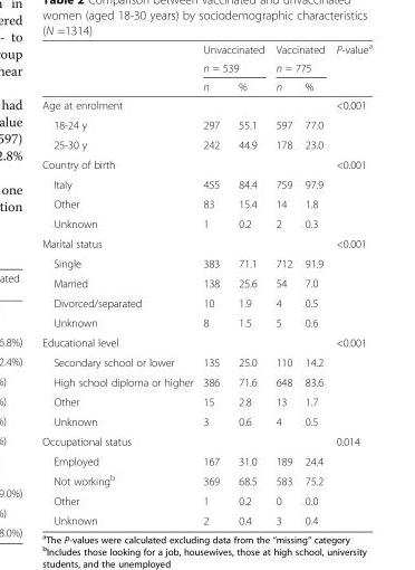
<table><thead><tr><td rowspan="3"></td><td rowspan="2" colspan="2">Unvaccinated n = 539</td><td rowspan="2" colspan="2">Vaccinated n = 775</td><td rowspan="3">P-value<sup>a</sup></td></tr><tr></tr><tr><td>n</td><td>%</td><td>n</td><td>%</td></tr></thead><tbody><tr><td>Age at enrolment</td><td></td><td></td><td></td><td></td><td>&lt;0.001</td></tr><tr><td>18-24 y</td><td>297</td><td>55.1</td><td>597</td><td>77.0</td><td></td></tr><tr><td>25-30 y</td><td>242</td><td>44.9</td><td>178</td><td>23.0</td><td></td></tr><tr><td>Country of birth</td><td></td><td></td><td></td><td></td><td>&lt;0.001</td></tr><tr><td>Italy</td><td>455</td><td>84.4</td><td>759</td><td>97.9</td><td></td></tr><tr><td>Other</td><td>83</td><td>15.4</td><td>14</td><td>1.8</td><td></td></tr><tr><td>Unknown</td><td>1</td><td>0.2</td><td>2</td><td>0.3</td><td></td></tr><tr><td>Marital status</td><td></td><td></td><td></td><td></td><td>&lt;0.001</td></tr><tr><td>Single</td><td>383</td><td>71.1</td><td>712</td><td>91.9</td><td></td></tr><tr><td>Married</td><td>138</td><td>25.6</td><td>54</td><td>7.0</td><td></td></tr><tr><td>Divorced/separated</td><td>10</td><td>1.9</td><td>4</td><td>0.5</td><td></td></tr><tr><td>Unknown</td><td>8</td><td>1.5</td><td>5</td><td>0.6</td><td></td></tr><tr><td>Educational level</td><td></td><td></td><td></td><td></td><td>&lt;0.001</td></tr><tr><td>Secondary school or lower</td><td>135</td><td>25.0</td><td>110</td><td>14.2</td><td></td></tr><tr><td>High school diploma or higher</td><td>386</td><td>71.6</td><td>648</td><td>83.6</td><td></td></tr><tr><td>Other</td><td>15</td><td>2.8</td><td>13</td><td>1.7</td><td></td></tr><tr><td>Unknown</td><td>3</td><td>0.6</td><td>4</td><td>0.5</td><td></td></tr><tr><td>Occupational status</td><td></td><td></td><td></td><td></td><td>0.014</td></tr><tr><td>Employed</td><td>167</td><td>31.0</td><td>189</td><td>24.4</td><td></td></tr><tr><td>Not working<sup>b</sup></td><td>369</td><td>68.5</td><td>583</td><td>75.2</td><td></td></tr><tr><td>Other</td><td>1</td><td>0.2</td><td>0</td><td>0.0</td><td></td></tr><tr><td>Unknown</td><td>2</td><td>0.4</td><td>3</td><td>0.4</td><td></td></tr></tbody></table>